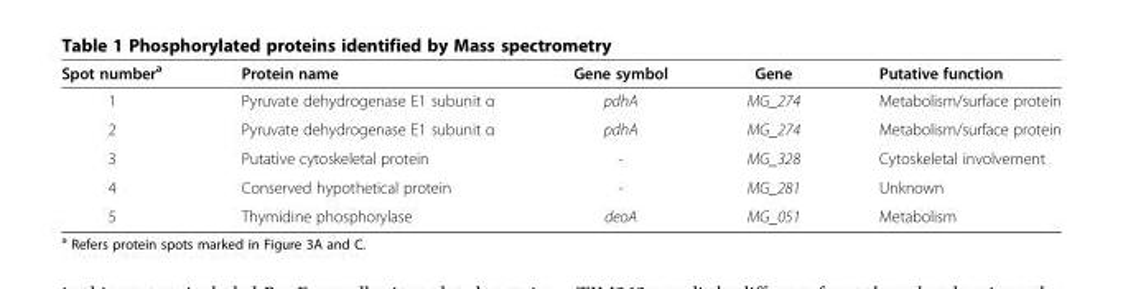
<table><thead><tr><td>Spot number<sup>a</sup></td><td>Protein name</td><td>Gene symbol</td><td>Gene</td><td>Putative function</td></tr></thead><tbody><tr><td>1</td><td>Pyruvate dehydrogenase E1 subunit α</td><td>pdhA</td><td>MG_274</td><td>Metabolism/surface protein</td></tr><tr><td>2</td><td>Pyruvate dehydrogenase E1 subunit α</td><td>pdhA</td><td>MG_274</td><td>Metabolism/surface protein</td></tr><tr><td>3</td><td>Putative cytoskeletal protein</td><td>-</td><td>MG_328</td><td>Cytoskeletal involvement</td></tr><tr><td>4</td><td>Conserved hypothetical protein</td><td>-</td><td>MG_281</td><td>Unknown</td></tr><tr><td>5</td><td>Thymidine phosphorylase</td><td>deoA</td><td>MG_051</td><td>Metabolism</td></tr></tbody></table>